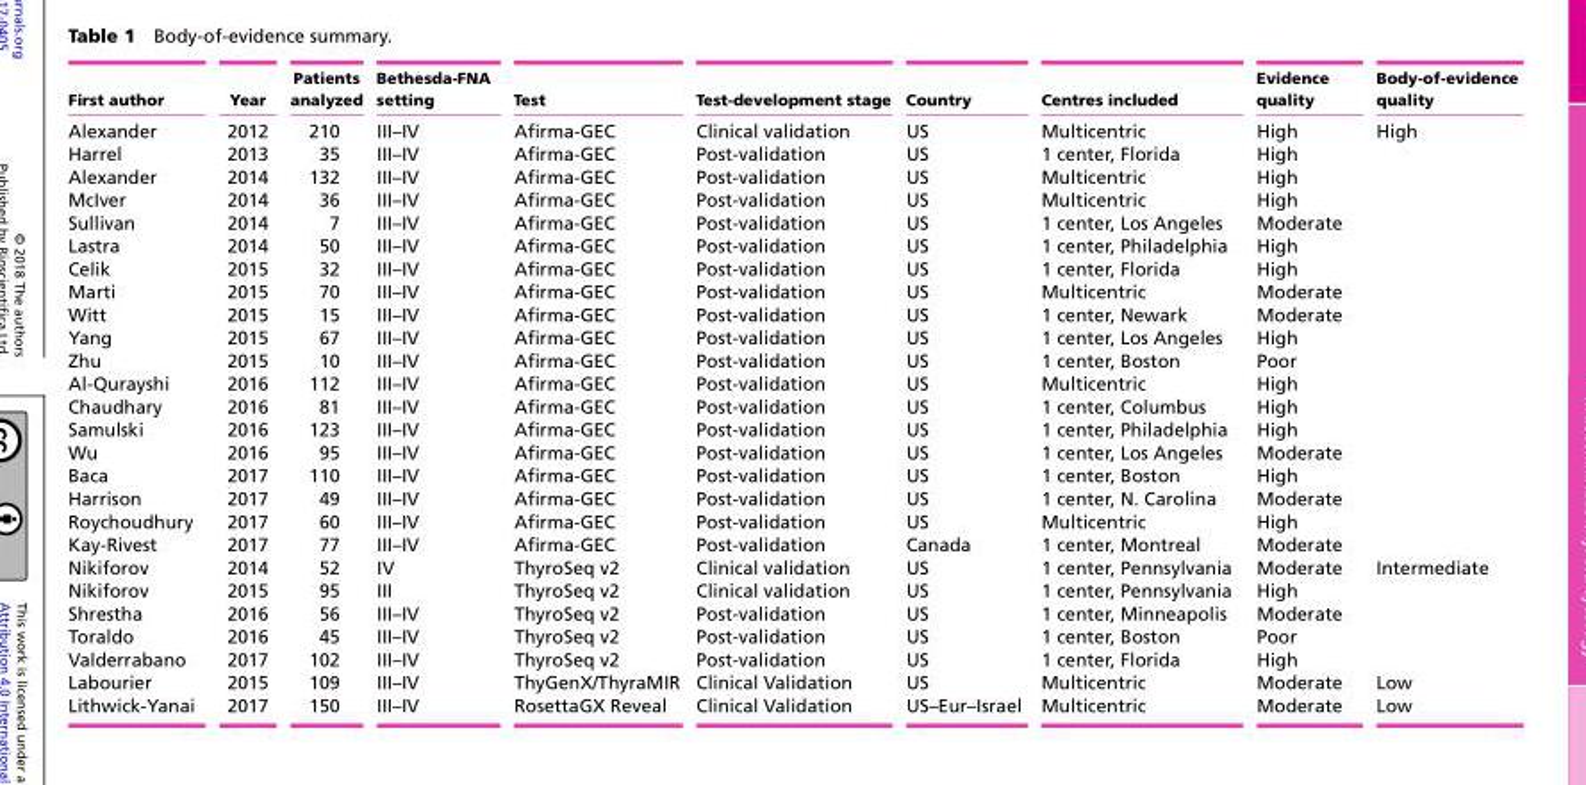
<table><thead><tr><td>First author</td><td>Year</td><td>Patients analyzed</td><td>Bethesda-FNA setting</td><td>Test</td><td>Test-development stage</td><td>Country</td><td>Centres included</td><td>Evidence quality</td><td>Body-of-evidence quality</td></tr></thead><tbody><tr><td>Alexander</td><td>2012</td><td>210</td><td>III–IV</td><td>Afirma-GEC</td><td>Clinical validation</td><td>US</td><td>Multicentric</td><td>High</td><td rowspan="19">High</td></tr><tr><td>Harrel</td><td>2013</td><td>35</td><td>III–IV</td><td>Afirma-GEC</td><td>Post-validation</td><td>US</td><td>1 center, Florida</td><td>High</td></tr><tr><td>Alexander</td><td>2014</td><td>132</td><td>III–IV</td><td>Afirma-GEC</td><td>Post-validation</td><td>US</td><td>Multicentric</td><td>High</td></tr><tr><td>McIver</td><td>2014</td><td>36</td><td>III–IV</td><td>Afirma-GEC</td><td>Post-validation</td><td>US</td><td>Multicentric</td><td>High</td></tr><tr><td>Sullivan</td><td>2014</td><td>7</td><td>III–IV</td><td>Afirma-GEC</td><td>Post-validation</td><td>US</td><td>1 center, Los Angeles</td><td>Moderate</td></tr><tr><td>Lastra</td><td>2014</td><td>50</td><td>III–IV</td><td>Afirma-GEC</td><td>Post-validation</td><td>US</td><td>1 center, Philadelphia</td><td>High</td></tr><tr><td>Celik</td><td>2015</td><td>32</td><td>III–IV</td><td>Afirma-GEC</td><td>Post-validation</td><td>US</td><td>1 center, Florida</td><td>High</td></tr><tr><td>Marti</td><td>2015</td><td>70</td><td>III–IV</td><td>Afirma-GEC</td><td>Post-validation</td><td>US</td><td>Multicentric</td><td>Moderate</td></tr><tr><td>Witt</td><td>2015</td><td>15</td><td>III–IV</td><td>Afirma-GEC</td><td>Post-validation</td><td>US</td><td>1 center, Newark</td><td>Moderate</td></tr><tr><td>Yang</td><td>2015</td><td>67</td><td>III–IV</td><td>Afirma-GEC</td><td>Post-validation</td><td>US</td><td>1 center, Los Angeles</td><td>High</td></tr><tr><td>Zhu</td><td>2015</td><td>10</td><td>III–IV</td><td>Afirma-GEC</td><td>Post-validation</td><td>US</td><td>1 center, Boston</td><td>Poor</td></tr><tr><td>Al-Qurayshi</td><td>2016</td><td>112</td><td>III–IV</td><td>Afirma-GEC</td><td>Post-validation</td><td>US</td><td>Multicentric</td><td>High</td></tr><tr><td>Chaudhary</td><td>2016</td><td>81</td><td>III–IV</td><td>Afirma-GEC</td><td>Post-validation</td><td>US</td><td>1 center, Columbus</td><td>High</td></tr><tr><td>Samulski</td><td>2016</td><td>123</td><td>III–IV</td><td>Afirma-GEC</td><td>Post-validation</td><td>US</td><td>1 center, Philadelphia</td><td>High</td></tr><tr><td>Wu</td><td>2016</td><td>95</td><td>III–IV</td><td>Afirma-GEC</td><td>Post-validation</td><td>US</td><td>1 center, Los Angeles</td><td>Moderate</td></tr><tr><td>Baca</td><td>2017</td><td>110</td><td>III–IV</td><td>Afirma-GEC</td><td>Post-validation</td><td>US</td><td>1 center, Boston</td><td>High</td></tr><tr><td>Harrison</td><td>2017</td><td>49</td><td>III–IV</td><td>Afirma-GEC</td><td>Post-validation</td><td>US</td><td>1 center, N. Carolina</td><td>Moderate</td></tr><tr><td>Roychoudhury</td><td>2017</td><td>60</td><td>III–IV</td><td>Afirma-GEC</td><td>Post-validation</td><td>US</td><td>Multicentric</td><td>High</td></tr><tr><td>Kay-Rivest</td><td>2017</td><td>77</td><td>III–IV</td><td>Afirma-GEC</td><td>Post-validation</td><td>Canada</td><td>1 center, Montreal</td><td>Moderate</td></tr><tr><td>Nikiforov</td><td>2014</td><td>52</td><td>IV</td><td>ThyroSeq v2</td><td>Clinical validation</td><td>US</td><td>1 center, Pennsylvania</td><td>Moderate</td><td rowspan="5">Intermediate</td></tr><tr><td>Nikiforov</td><td>2015</td><td>95</td><td>III</td><td>ThyroSeq v2</td><td>Clinical validation</td><td>US</td><td>1 center, Pennsylvania</td><td>High</td></tr><tr><td>Shrestha</td><td>2016</td><td>56</td><td>III–IV</td><td>ThyroSeq v2</td><td>Post-validation</td><td>US</td><td>1 center, Minneapolis</td><td>Moderate</td></tr><tr><td>Toraldo</td><td>2016</td><td>45</td><td>III–IV</td><td>ThyroSeq v2</td><td>Post-validation</td><td>US</td><td>1 center, Boston</td><td>Poor</td></tr><tr><td>Valderrabano</td><td>2017</td><td>102</td><td>III–IV</td><td>ThyroSeq v2</td><td>Post-validation</td><td>US</td><td>1 center, Florida</td><td>High</td></tr><tr><td>Labourier</td><td>2015</td><td>109</td><td>III–IV</td><td>ThyGenX/ThyraMIR</td><td>Clinical Validation</td><td>US</td><td>Multicentric</td><td>Moderate</td><td>Low</td></tr><tr><td>Lithwick-Yanai</td><td>2017</td><td>150</td><td>III–IV</td><td>RosettaGX Reveal</td><td>Clinical Validation</td><td>US–Eur–Israel</td><td>Multicentric</td><td>Moderate</td><td>Low</td></tr></tbody></table>